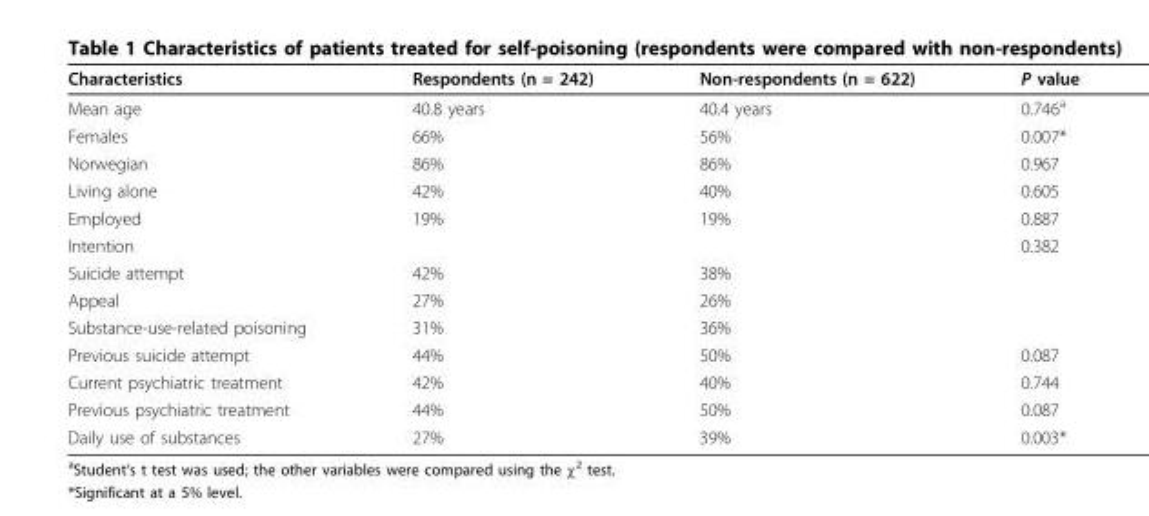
<table><thead><tr><td>Characteristics</td><td>Respondents (n = 242)</td><td>Non-respondents (n = 622)</td><td>P value</td></tr></thead><tbody><tr><td>Mean age</td><td>40.8 years</td><td>40.4 years</td><td>0.746<sup>a</sup></td></tr><tr><td>Females</td><td>66%</td><td>56%</td><td>0.007*</td></tr><tr><td>Norwegian</td><td>86%</td><td>86%</td><td>0.967</td></tr><tr><td>Living alone</td><td>42%</td><td>40%</td><td>0.605</td></tr><tr><td>Employed</td><td>19%</td><td>19%</td><td>0.887</td></tr><tr><td>Intention</td><td></td><td></td><td>0.382</td></tr><tr><td>Suicide attempt</td><td>42%</td><td>38%</td><td></td></tr><tr><td>Appeal</td><td>27%</td><td>26%</td><td></td></tr><tr><td>Substance-use-related poisoning</td><td>31%</td><td>36%</td><td></td></tr><tr><td>Previous suicide attempt</td><td>44%</td><td>50%</td><td>0.087</td></tr><tr><td>Current psychiatric treatment</td><td>42%</td><td>40%</td><td>0.744</td></tr><tr><td>Previous psychiatric treatment</td><td>44%</td><td>50%</td><td>0.087</td></tr><tr><td>Daily use of substances</td><td>27%</td><td>39%</td><td>0.003*</td></tr></tbody></table>